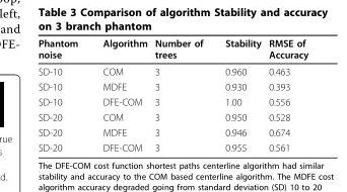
<table><thead><tr><td>Phantom noise</td><td>Algorithm</td><td>Number of trees</td><td>Stability</td><td>RMSE of Accuracy</td></tr></thead><tbody><tr><td>SD-10</td><td>COM</td><td>3</td><td>0.960</td><td>0.463</td></tr><tr><td>SD-10</td><td>MDFE</td><td>3</td><td>0.930</td><td>0.393</td></tr><tr><td>SD-10</td><td>DFE-COM</td><td>3</td><td>1.00</td><td>0.556</td></tr><tr><td>SD-20</td><td>COM</td><td>3</td><td>0.950</td><td>0.528</td></tr><tr><td>SD-20</td><td>MDFE</td><td>3</td><td>0.946</td><td>0.674</td></tr><tr><td>SD-20</td><td>DFE-COM</td><td>3</td><td>0.955</td><td>0.561</td></tr></tbody></table>